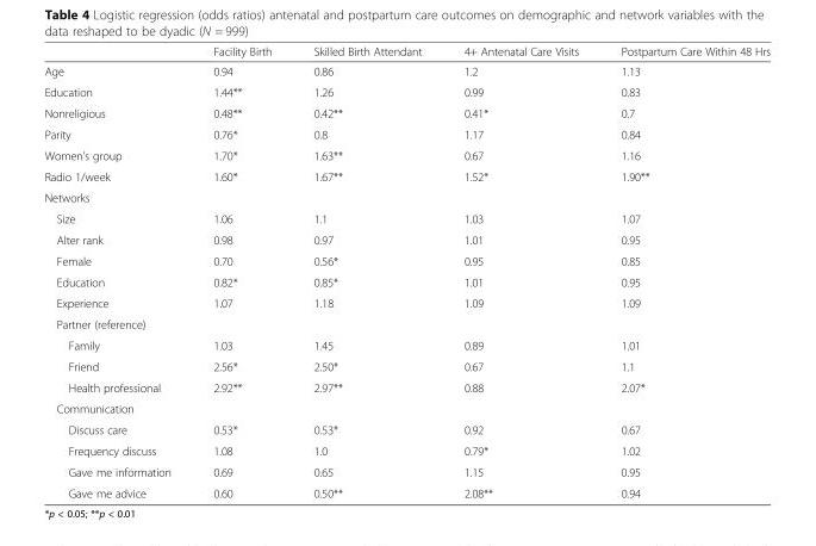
<table><thead><tr><td></td><td>Facility Birth</td><td>Skilled Birth Attendant</td><td>4+ Antenatal Care Visits</td><td>Postpartum Care Within 48 Hrs</td></tr></thead><tbody><tr><td>Age</td><td>0.94</td><td>0.86</td><td>1.2</td><td>1.13</td></tr><tr><td>Education</td><td>1.44**</td><td>1.26</td><td>0.99</td><td>0.83</td></tr><tr><td>Nonreligious</td><td>0.48**</td><td>0.42**</td><td>0.41*</td><td>0.7</td></tr><tr><td>Parity</td><td>0.76*</td><td>0.8</td><td>1.17</td><td>0.84</td></tr><tr><td>Women’s group</td><td>1.70*</td><td>1.63**</td><td>0.67</td><td>1.16</td></tr><tr><td>Radio 1/week</td><td>1.60*</td><td>1.67**</td><td>1.52*</td><td>1.90**</td></tr><tr><td colspan="5">Networks</td></tr><tr><td>Size</td><td>1.06</td><td>1.1</td><td>1.03</td><td>1.07</td></tr><tr><td>Alter rank</td><td>0.98</td><td>0.97</td><td>1.01</td><td>0.95</td></tr><tr><td>Female</td><td>0.70</td><td>0.56*</td><td>0.95</td><td>0.85</td></tr><tr><td>Education</td><td>0.82*</td><td>0.85*</td><td>1.01</td><td>0.95</td></tr><tr><td>Experience</td><td>1.07</td><td>1.18</td><td>1.09</td><td>1.09</td></tr><tr><td colspan="5">Partner (reference)</td></tr><tr><td>Family</td><td>1.03</td><td>1.45</td><td>0.89</td><td>1.01</td></tr><tr><td>Friend</td><td>2.56*</td><td>2.50*</td><td>0.67</td><td>1.1</td></tr><tr><td>Health professional</td><td>2.92**</td><td>2.97**</td><td>0.88</td><td>2.07*</td></tr><tr><td colspan="5">Communication</td></tr><tr><td>Discuss care</td><td>0.53*</td><td>0.53*</td><td>0.92</td><td>0.67</td></tr><tr><td>Frequency discuss</td><td>1.08</td><td>1.0</td><td>0.79*</td><td>1.02</td></tr><tr><td>Gave me information</td><td>0.69</td><td>0.65</td><td>1.15</td><td>0.95</td></tr><tr><td>Gave me advice</td><td>0.60</td><td>0.50**</td><td>2.08**</td><td>0.94</td></tr></tbody></table>